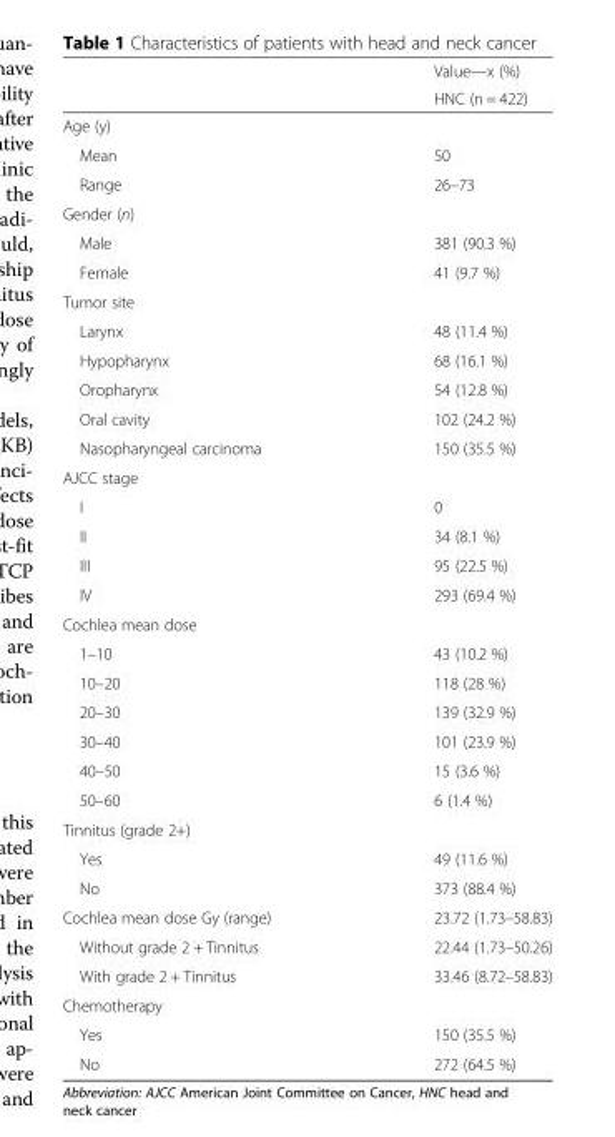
<table><thead><tr><td rowspan="2"></td><td rowspan="2">Value—x (%) HNC (n = 422)</td></tr><tr></tr></thead><tbody><tr><td colspan="2">Age (y)</td></tr><tr><td>Mean</td><td>50</td></tr><tr><td>Range</td><td>26–73</td></tr><tr><td colspan="2">Gender (n)</td></tr><tr><td>Male</td><td>381 (90.3 %)</td></tr><tr><td>Female</td><td>41 (9.7 %)</td></tr><tr><td colspan="2">Tumor site</td></tr><tr><td>Larynx</td><td>48 (11.4 %)</td></tr><tr><td>Hypopharynx</td><td>68 (16.1 %)</td></tr><tr><td>Oropharynx</td><td>54 (12.8 %)</td></tr><tr><td>Oral cavity</td><td>102 (24.2 %)</td></tr><tr><td>Nasopharyngeal carcinoma</td><td>150 (35.5 %)</td></tr><tr><td colspan="2">AJCC stage</td></tr><tr><td>I</td><td>0</td></tr><tr><td>II</td><td>34 (8.1 %)</td></tr><tr><td>III</td><td>95 (22.5 %)</td></tr><tr><td>IV</td><td>293 (69.4 %)</td></tr><tr><td colspan="2">Cochlea mean dose</td></tr><tr><td>1–10</td><td>43 (10.2 %)</td></tr><tr><td>10–20</td><td>118 (28 %)</td></tr><tr><td>20–30</td><td>139 (32.9 %)</td></tr><tr><td>30–40</td><td>101 (23.9 %)</td></tr><tr><td>40–50</td><td>15 (3.6 %)</td></tr><tr><td>50–60</td><td>6 (1.4 %)</td></tr><tr><td colspan="2">Tinnitus (grade 2+)</td></tr><tr><td>Yes</td><td>49 (11.6 %)</td></tr><tr><td>No</td><td>373 (88.4 %)</td></tr><tr><td>Cochlea mean dose Gy (range)</td><td>23.72 (1.73–58.83)</td></tr><tr><td>Without grade 2 + Tinnitus</td><td>22.44 (1.73–50.26)</td></tr><tr><td>With grade 2 + Tinnitus</td><td>33.46 (8.72–58.83)</td></tr><tr><td colspan="2">Chemotherapy</td></tr><tr><td>Yes</td><td>150 (35.5 %)</td></tr><tr><td>No</td><td>272 (64.5 %)</td></tr></tbody></table>